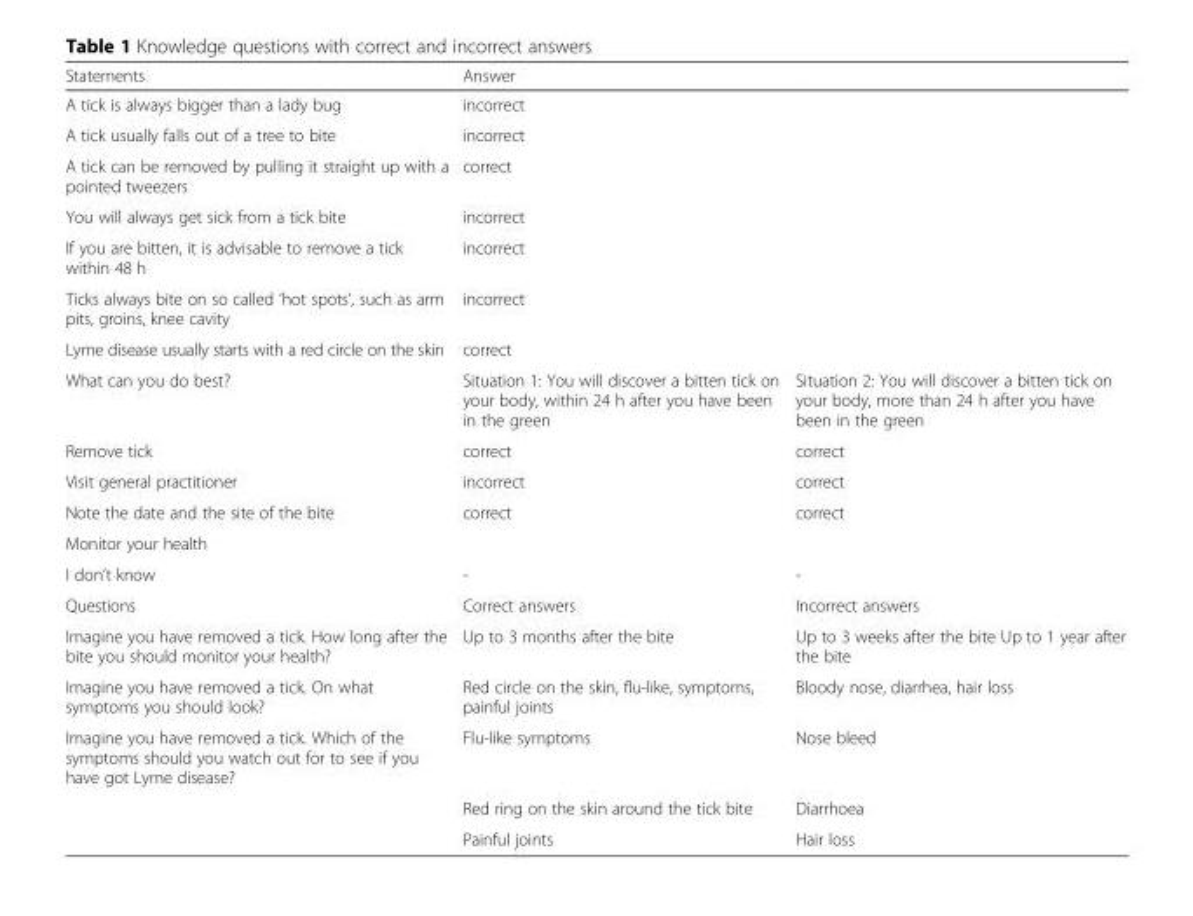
<table><thead><tr><td>Statements</td><td>Answer</td><td></td></tr></thead><tbody><tr><td>A tick is always bigger than a lady bug</td><td>incorrect</td><td></td></tr><tr><td>A tick usually falls out of a tree to bite</td><td>incorrect</td><td></td></tr><tr><td>A tick can be removed by pulling it straight up with a pointed tweezers</td><td>correct</td><td></td></tr><tr><td>You will always get sick from a tick bite</td><td>incorrect</td><td></td></tr><tr><td>If you are bitten, it is advisable to remove a tick within 48 h</td><td>incorrect</td><td></td></tr><tr><td>Ticks always bite on so called ‘hot spots’, such as arm pits, groins, knee cavity</td><td>incorrect</td><td></td></tr><tr><td>Lyme disease usually starts with a red circle on the skin</td><td>correct</td><td></td></tr><tr><td>What can you do best?</td><td>Situation 1: You will discover a bitten tick on your body, within 24 h after you have been in the green</td><td>Situation 2: You will discover a bitten tick on your body, more than 24 h after you have been in the green</td></tr><tr><td>Remove tick</td><td>correct</td><td>correct</td></tr><tr><td>Visit general practitioner</td><td>incorrect</td><td>correct</td></tr><tr><td>Note the date and the site of the bite</td><td>correct</td><td>correct</td></tr><tr><td colspan="3">Monitor your health</td></tr><tr><td>I don’t know</td><td>-</td><td>-</td></tr><tr><td>Questions</td><td>Correct answers</td><td>Incorrect answers</td></tr><tr><td>Imagine you have removed a tick. How long after the bite you should monitor your health?</td><td>Up to 3 months after the bite</td><td>Up to 3 weeks after the bite Up to 1 year after the bite</td></tr><tr><td>Imagine you have removed a tick. On what symptoms you should look?</td><td>Red circle on the skin, flu-like, symptoms, painful joints</td><td>Bloody nose, diarrhea, hair loss</td></tr><tr><td rowspan="3">Imagine you have removed a tick. Which of the symptoms should you watch out for to see if you have got Lyme disease?</td><td>Flu-like symptoms</td><td>Nose bleed</td></tr><tr><td>Red ring on the skin around the tick bite</td><td>Diarrhoea</td></tr><tr><td>Painful joints</td><td>Hair loss</td></tr></tbody></table>